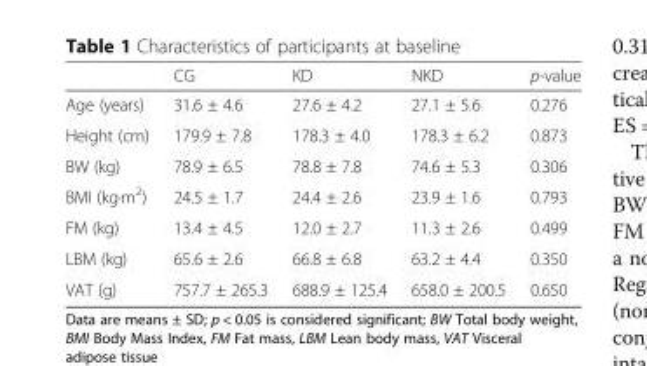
<table><thead><tr><td></td><td>CG</td><td>KD</td><td>NKD</td><td>p-value</td></tr></thead><tbody><tr><td>Age (years)</td><td>31.6 ± 4.6</td><td>27.6 ± 4.2</td><td>27.1 ± 5.6</td><td>0.276</td></tr><tr><td>Height (cm)</td><td>179.9 ± 7.8</td><td>178.3 ± 4.0</td><td>178.3 ± 6.2</td><td>0.873</td></tr><tr><td>BW (kg)</td><td>78.9 ± 6.5</td><td>78.8 ± 7.8</td><td>74.6 ± 5.3</td><td>0.306</td></tr><tr><td>BMI (kg∙m<sup>2</sup>)</td><td>24.5 ± 1.7</td><td>24.4 ± 2.6</td><td>23.9 ± 1.6</td><td>0.793</td></tr><tr><td>FM (kg)</td><td>13.4 ± 4.5</td><td>12.0 ± 2.7</td><td>11.3 ± 2.6</td><td>0.499</td></tr><tr><td>LBM (kg)</td><td>65.6 ± 2.6</td><td>66.8 ± 6.8</td><td>63.2 ± 4.4</td><td>0.350</td></tr><tr><td>VAT (g)</td><td>757.7 ± 265.3</td><td>688.9 ± 125.4</td><td>658.0 ± 200.5</td><td>0.650</td></tr></tbody></table>